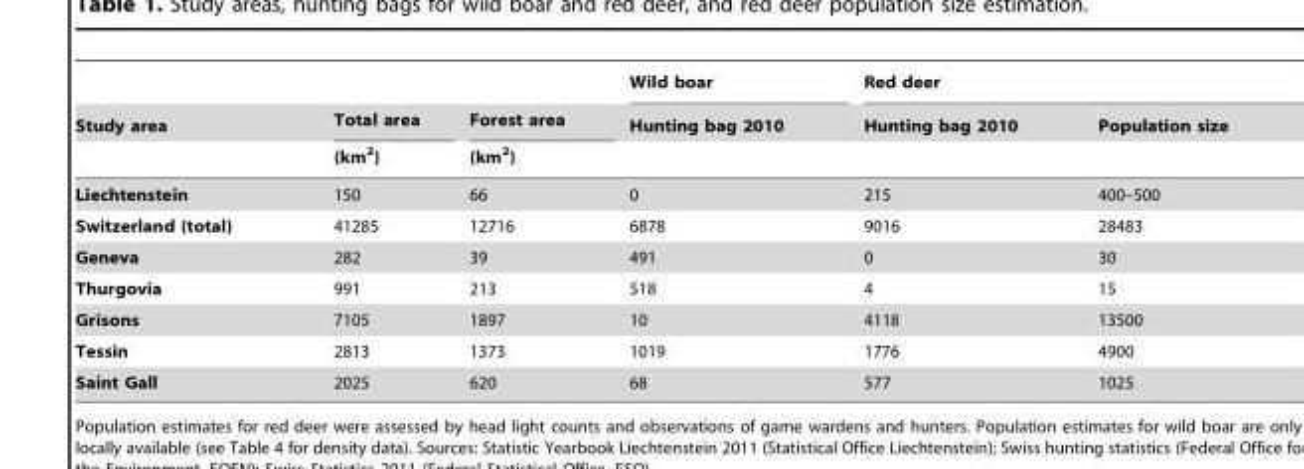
<table><thead><tr><td rowspan="3">Study area</td><td rowspan="3">Total area (km<sup>2</sup>)</td><td rowspan="3">Forest area (km<sup>2</sup>)</td><td rowspan="3">Wild boar Hunting bag 2010</td><td colspan="2">Red deer</td></tr><tr><td rowspan="2">Hunting bag 2010</td><td rowspan="2">Population size</td></tr><tr></tr></thead><tbody><tr><td>Liechtenstein</td><td>150</td><td>66</td><td>0</td><td>215</td><td>400–500</td></tr><tr><td>Switzerland (total)</td><td>41285</td><td>12716</td><td>6878</td><td>9016</td><td>28483</td></tr><tr><td>Geneva</td><td>282</td><td>39</td><td>491</td><td>0</td><td>30</td></tr><tr><td>Thurgovia</td><td>991</td><td>213</td><td>518</td><td>4</td><td>15</td></tr><tr><td>Grisons</td><td>7105</td><td>1897</td><td>10</td><td>4118</td><td>13500</td></tr><tr><td>Tessin</td><td>2813</td><td>1373</td><td>1019</td><td>1776</td><td>4900</td></tr><tr><td>Saint Gall</td><td>2025</td><td>620</td><td>68</td><td>577</td><td>1025</td></tr></tbody></table>